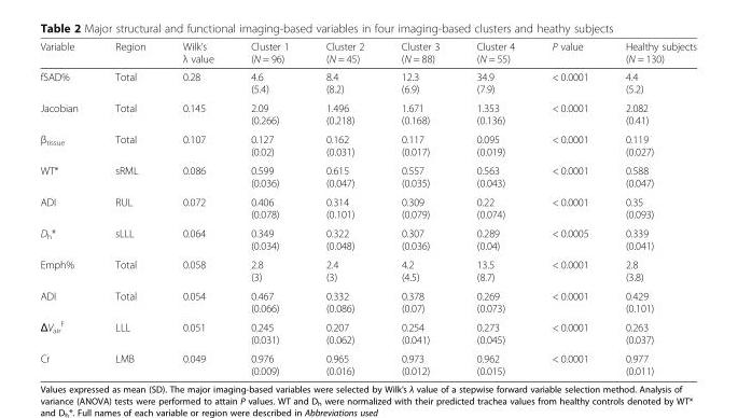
<table><thead><tr><td>Variable</td><td>Region</td><td>Wilk’s λ value</td><td>Cluster 1 (N = 96)</td><td>Cluster 2 (N = 45)</td><td>Cluster 3 (N = 88)</td><td>Cluster 4 (N = 55)</td><td>P value</td><td>Healthy subjects (N = 130)</td></tr></thead><tbody><tr><td>fSAD%</td><td>Total</td><td>0.28</td><td>4.6 (5.4)</td><td>8.4 (8.2)</td><td>12.3 (6.9)</td><td>34.9 (7.9)</td><td>&lt; 0.0001</td><td>4.4 (5.2)</td></tr><tr><td>Jacobian</td><td>Total</td><td>0.145</td><td>2.09 (0.266)</td><td>1.496 (0.218)</td><td>1.671 (0.168)</td><td>1.353 (0.136)</td><td>&lt; 0.0001</td><td>2.082 (0.41)</td></tr><tr><td>β<sub>tissue</sub></td><td>Total</td><td>0.107</td><td>0.127 (0.02)</td><td>0.162 (0.031)</td><td>0.117 (0.017)</td><td>0.095 (0.019)</td><td>&lt; 0.0001</td><td>0.119 (0.027)</td></tr><tr><td>WT*</td><td>sRML</td><td>0.086</td><td>0.599 (0.036)</td><td>0.615 (0.047)</td><td>0.557 (0.035)</td><td>0.563 (0.043)</td><td>&lt; 0.0001</td><td>0.588 (0.047)</td></tr><tr><td>ADI</td><td>RUL</td><td>0.072</td><td>0.406 (0.078)</td><td>0.314 (0.101)</td><td>0.309 (0.079)</td><td>0.22 (0.074)</td><td>&lt; 0.0001</td><td>0.35 (0.093)</td></tr><tr><td>D<sub>h</sub>*</td><td>sLLL</td><td>0.064</td><td>0.349 (0.034)</td><td>0.322 (0.048)</td><td>0.307 (0.036)</td><td>0.289 (0.04)</td><td>&lt; 0.0005</td><td>0.339 (0.041)</td></tr><tr><td>Emph%</td><td>Total</td><td>0.058</td><td>2.8 (3)</td><td>2.4 (3)</td><td>4.2 (4.5)</td><td>13.5 (8.7)</td><td>&lt; 0.0001</td><td>2.8 (3.8)</td></tr><tr><td>ADI</td><td>Total</td><td>0.054</td><td>0.467 (0.066)</td><td>0.332 (0.086)</td><td>0.378 (0.07)</td><td>0.269 (0.073)</td><td>&lt; 0.0001</td><td>0.429 (0.101)</td></tr><tr><td>ΔV<sub>air</sub> <sup>F</sup></td><td>LLL</td><td>0.051</td><td>0.245 (0.031)</td><td>0.207 (0.062)</td><td>0.254 (0.041)</td><td>0.273 (0.045)</td><td>&lt; 0.0001</td><td>0.263 (0.037)</td></tr><tr><td>Cr</td><td>LMB</td><td>0.049</td><td>0.976 (0.009)</td><td>0.965 (0.016)</td><td>0.973 (0.012)</td><td>0.962 (0.015)</td><td>&lt; 0.0001</td><td>0.977 (0.011)</td></tr></tbody></table>